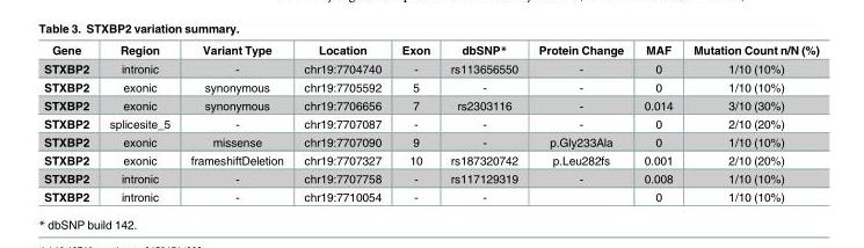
<table><thead><tr><td>Gene</td><td>Region</td><td>Variant Type</td><td>Location</td><td>Exon</td><td>dbSNP*</td><td>Protein Change</td><td>MAF</td><td>Mutation Count n/N (%)</td></tr></thead><tbody><tr><td>STXBP2</td><td>intronic</td><td>-</td><td>chr19:7704740</td><td>-</td><td>rs113656550</td><td>-</td><td>0</td><td>1/10 (10%)</td></tr><tr><td>STXBP2</td><td>exonic</td><td>synonymous</td><td>chr19:7705592</td><td>5</td><td>-</td><td>-</td><td>0</td><td>1/10 (10%)</td></tr><tr><td>STXBP2</td><td>exonic</td><td>synonymous</td><td>chr19:7706656</td><td>7</td><td>rs2303116</td><td>-</td><td>0.014</td><td>3/10 (30%)</td></tr><tr><td>STXBP2</td><td>splicesite_5</td><td>-</td><td>chr19:7707087</td><td>-</td><td>-</td><td>-</td><td>0</td><td>2/10 (20%)</td></tr><tr><td>STXBP2</td><td>exonic</td><td>missense</td><td>chr19:7707090</td><td>9</td><td>-</td><td>p.Gly233Ala</td><td>0</td><td>1/10 (10%)</td></tr><tr><td>STXBP2</td><td>exonic</td><td>frameshiftDeletion</td><td>chr19:7707327</td><td>10</td><td>rs187320742</td><td>p.Leu282fs</td><td>0.001</td><td>2/10 (20%)</td></tr><tr><td>STXBP2</td><td>intronic</td><td>-</td><td>chr19:7707758</td><td>-</td><td>rs117129319</td><td>-</td><td>0.008</td><td>1/10 (10%)</td></tr><tr><td>STXBP2</td><td>intronic</td><td>-</td><td>chr19:7710054</td><td>-</td><td>-</td><td></td><td>0</td><td>1/10 (10%)</td></tr></tbody></table>